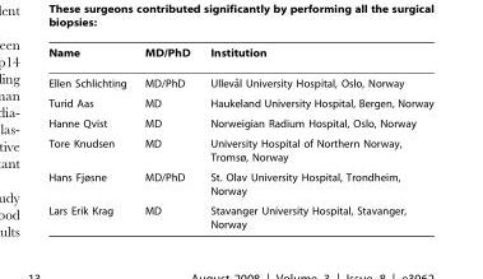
<table><tbody><tr><td>Name</td><td>MD/PhD</td><td>Institution</td></tr><tr><td>Ellen Schlichting</td><td>MD/PhD</td><td>Ulleva˚l University Hospital, Oslo, Norway</td></tr><tr><td>Turid Aas</td><td>MD</td><td>Haukeland University Hospital, Bergen, Norway</td></tr><tr><td>Hanne Qvist</td><td>MD</td><td>Norweigian Radium Hospital, Oslo, Norway</td></tr><tr><td>Tore Knudsen</td><td>MD</td><td>University Hospital of Northern Norway, Tromsø, Norway</td></tr><tr><td>Hans Fjøsne</td><td>MD/PhD</td><td>St. Olav University Hospital, Trondheim, Norway</td></tr><tr><td>Lars Erik Krag</td><td>MD</td><td>Stavanger University Hospital, Stavanger, Norway</td></tr></tbody></table>